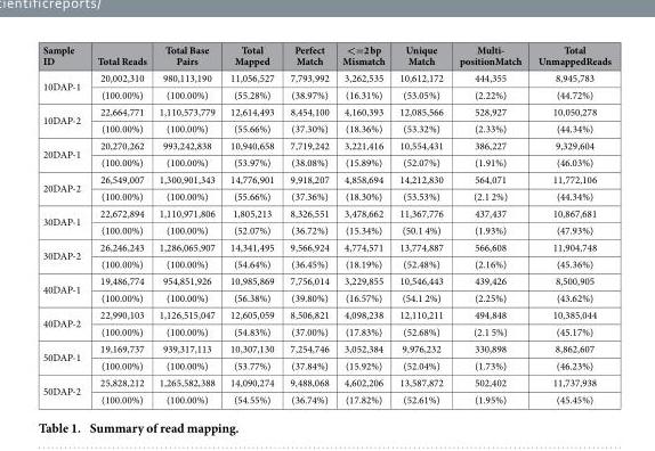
<table><thead><tr><td>Sample ID</td><td>Total Reads</td><td>Total Base Pairs</td><td>Total Mapped</td><td>Perfect Match</td><td>&lt;=2 bp Mismatch</td><td>Unique Match</td><td>Multi- positionMatch</td><td>Total UnmappedReads</td></tr></thead><tbody><tr><td rowspan="2">10DAP-1</td><td>20,002,310</td><td>980,113,190</td><td>11,056,527</td><td>7,793,992</td><td>3,262,535</td><td>10,612,172</td><td>444,355</td><td>8,945,783</td></tr><tr><td>(100.00%)</td><td>(100.00%)</td><td>(55.28%)</td><td>(38.97%)</td><td>(16.31%)</td><td>(53.05%)</td><td>(2.22%)</td><td>(44.72%)</td></tr><tr><td rowspan="2">10DAP-2</td><td>22,664,771</td><td>1,110,573,779</td><td>12,614,493</td><td>8,454,100</td><td>4,160,393</td><td>12,085,566</td><td>528,927</td><td>10,050,278</td></tr><tr><td>(100.00%)</td><td>(100.00%)</td><td>(55.66%)</td><td>(37.30%)</td><td>(18.36%)</td><td>(53.32%)</td><td>(2.33%)</td><td>(44.34%)</td></tr><tr><td rowspan="2">20DAP-1</td><td>20,270,262</td><td>993,242,838</td><td>10,940,658</td><td>7,719,242</td><td>3,221,416</td><td>10,554,431</td><td>386,227</td><td>9,329,604</td></tr><tr><td>(100.00%)</td><td>(100.00%)</td><td>(53.97%)</td><td>(38.08%)</td><td>(15.89%)</td><td>(52.07%)</td><td>(1.91%)</td><td>(46.03%)</td></tr><tr><td rowspan="2">20DAP-2</td><td>26,549,007</td><td>1,300,901,343</td><td>14,776,901</td><td>9,918,207</td><td>4,858,694</td><td>14,212,830</td><td>564,071</td><td>11,772,106</td></tr><tr><td>(100.00%)</td><td>(100.00%)</td><td>(55.66%)</td><td>(37.36%)</td><td>(18.30%)</td><td>(53.53%)</td><td>(2.1 2%)</td><td>(44.34%)</td></tr><tr><td rowspan="2">30DAP-1</td><td>22,672,894</td><td>1,110,971,806</td><td>1,805,213</td><td>8,326,551</td><td>3,478,662</td><td>11,367,776</td><td>437,437</td><td>10,867,681</td></tr><tr><td>(100.00%)</td><td>(100.00%)</td><td>(52.07%)</td><td>(36.72%)</td><td>(15.34%)</td><td>(50.1 4%)</td><td>(1.93%)</td><td>(47.93%)</td></tr><tr><td rowspan="2">30DAP-2</td><td>26,246,243</td><td>1,286,065,907</td><td>14,341,495</td><td>9,566,924</td><td>4,774,571</td><td>13,774,887</td><td>566,608</td><td>11,904,748</td></tr><tr><td>(100.00%)</td><td>(100.00%)</td><td>(54.64%)</td><td>(36.45%)</td><td>(18.19%)</td><td>(52.48%)</td><td>(2.16%)</td><td>(45.36%)</td></tr><tr><td rowspan="2">40DAP-1</td><td>19,486,774</td><td>954,851,926</td><td>10,985,869</td><td>7,756,014</td><td>3,229,855</td><td>10,546,443</td><td>439,426</td><td>8,500,905</td></tr><tr><td>(100.00%)</td><td>(100.00%)</td><td>(56.38%)</td><td>(39.80%)</td><td>(16.57%)</td><td>(54.1 2%)</td><td>(2.25%)</td><td>(43.62%)</td></tr><tr><td rowspan="2">40DAP-2</td><td>22,990,103</td><td>1,126,515,047</td><td>12,605,059</td><td>8,506,821</td><td>4,098,238</td><td>12,110,211</td><td>494,848</td><td>10,385,044</td></tr><tr><td>(100.00%)</td><td>(100.00%)</td><td>(54.83%)</td><td>(37.00%)</td><td>(17.83%)</td><td>(52.68%)</td><td>(2.1 5%)</td><td>(45.17%)</td></tr><tr><td rowspan="2">50DAP-1</td><td>19,169,737</td><td>939,317,113</td><td>10,307,130</td><td>7,254,746</td><td>3,052,384</td><td>9,976,232</td><td>330,898</td><td>8,862,607</td></tr><tr><td>(100.00%)</td><td>(100.00%)</td><td>(53.77%)</td><td>(37.84%)</td><td>(15.92%)</td><td>(52.04%)</td><td>(1.73%)</td><td>(46.23%)</td></tr><tr><td rowspan="2">50DAP-2</td><td>25,828,212</td><td>1,265,582,388</td><td>14,090,274</td><td>9,488,068</td><td>4,602,206</td><td>13,587,872</td><td>502,402</td><td>11,737,938</td></tr><tr><td>(100.00%)</td><td>(100.00%)</td><td>(54.55%)</td><td>(36.74%)</td><td>(17.82%)</td><td>(52.61%)</td><td>(1.95%)</td><td>(45.45%)</td></tr></tbody></table>